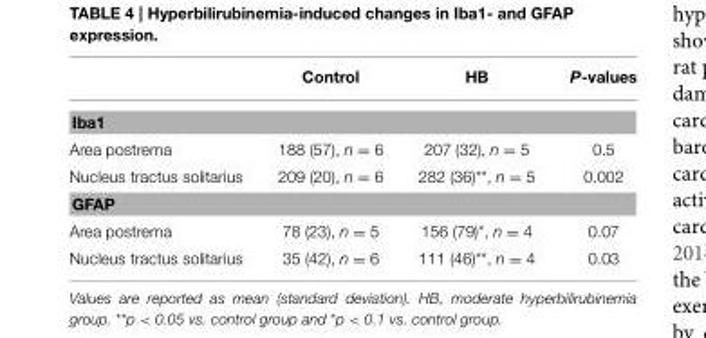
<table><thead><tr><td></td><td>Control</td><td>HB</td><td>P-values</td></tr></thead><tbody><tr><td colspan="4">Iba1</td></tr><tr><td>Area postrema</td><td>188 (57), n = 6</td><td>207 (32), n = 5</td><td>0.5</td></tr><tr><td>Nucleus tractus solitarius</td><td>209 (20), n = 6</td><td>282 (36)**, n = 5</td><td>0.002</td></tr><tr><td colspan="4">GFAP</td></tr><tr><td>Area postrema</td><td>78 (23), n = 5</td><td>156 (79)*, n = 4</td><td>0.07</td></tr><tr><td>Nucleus tractus solitarius</td><td>35 (42), n = 6</td><td>111 (46)**, n = 4</td><td>0.03</td></tr></tbody></table>